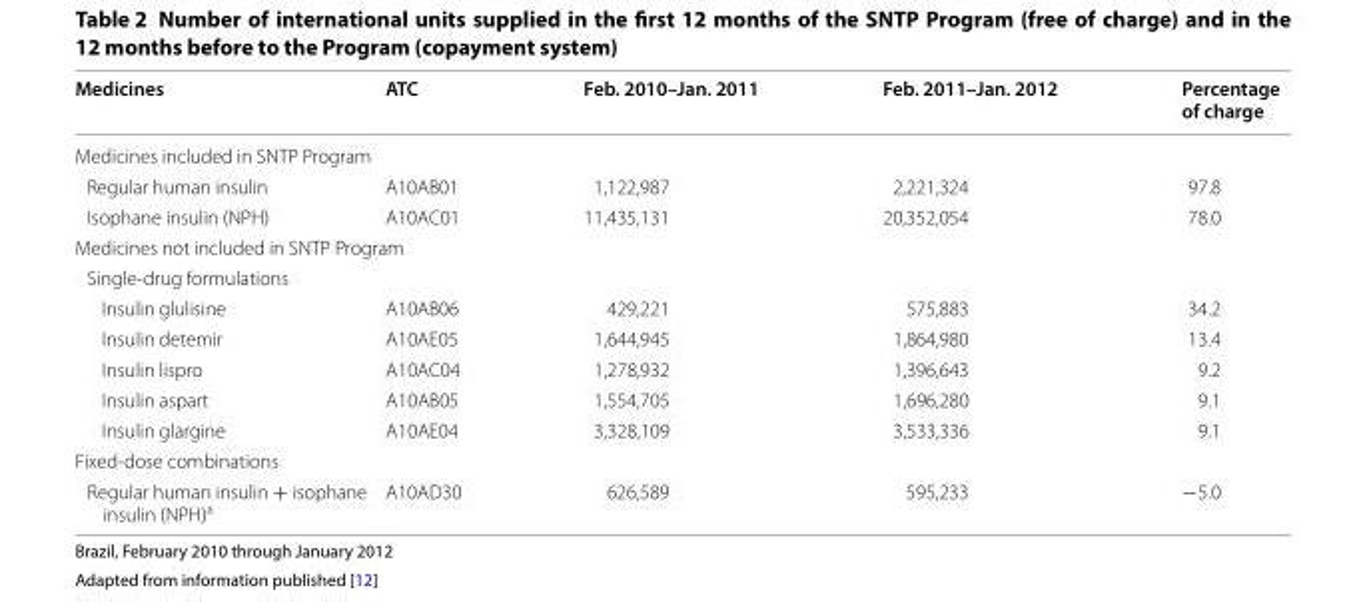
<table><thead><tr><td>Medicines</td><td>ATC</td><td>Feb. 2010–Jan. 2011</td><td>Feb. 2011–Jan. 2012</td><td>Percentage of charge</td></tr></thead><tbody><tr><td colspan="5">Medicines included in SNTP Program</td></tr><tr><td>Regular human insulin</td><td>A10AB01</td><td>1,122,987</td><td>2,221,324</td><td>97.8</td></tr><tr><td>Isophane insulin (NPH)</td><td>A10AC01</td><td>11,435,131</td><td>20,352,054</td><td>78.0</td></tr><tr><td colspan="5">Medicines not included in SNTP Program</td></tr><tr><td colspan="5">Single‑drug formulations</td></tr><tr><td>Insulin glulisine</td><td>A10AB06</td><td>429,221</td><td>575,883</td><td>34.2</td></tr><tr><td>Insulin detemir</td><td>A10AE05</td><td>1,644,945</td><td>1,864,980</td><td>13.4</td></tr><tr><td>Insulin lispro</td><td>A10AC04</td><td>1,278,932</td><td>1,396,643</td><td>9.2</td></tr><tr><td>Insulin aspart</td><td>A10AB05</td><td>1,554,705</td><td>1,696,280</td><td>9.1</td></tr><tr><td>Insulin glargine</td><td>A10AE04</td><td>3,328,109</td><td>3,533,336</td><td>9.1</td></tr><tr><td colspan="5">Fixed‑dose combinations</td></tr><tr><td>Regular human insulin + isophane insulin (NPH)<sup>a</sup></td><td>A10AD30</td><td>626,589</td><td>595,233</td><td>−5.0</td></tr></tbody></table>